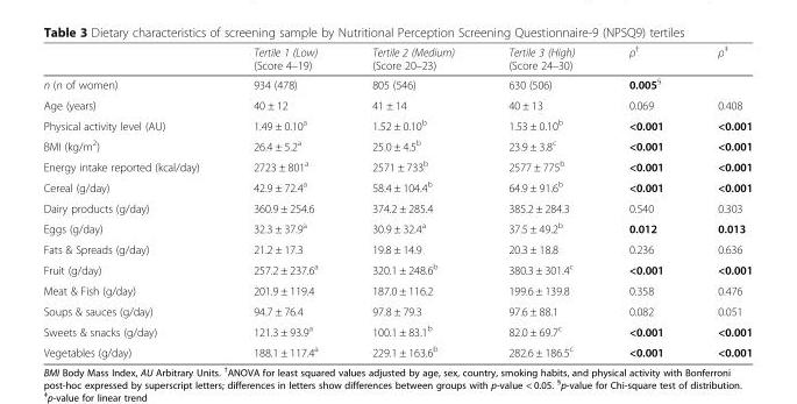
<table><thead><tr><td></td><td>Tertile 1 (Low) (Score 4–19)</td><td>Tertile 2 (Medium) (Score 20–23)</td><td>Tertile 3 (High) (Score 24–30)</td><td>ρ<sup>†</sup></td><td>ρ<sup>‡</sup></td></tr></thead><tbody><tr><td>n (n of women)</td><td>934 (478)</td><td>805 (546)</td><td>630 (506)</td><td>0.005<sup>§</sup></td><td></td></tr><tr><td>Age (years)</td><td>40 ± 12</td><td>41 ± 14</td><td>40 ± 13</td><td>0.069</td><td>0.408</td></tr><tr><td>Physical activity level (AU)</td><td>1.49 ± 0.10<sup>a</sup></td><td>1.52 ± 0.10<sup>b</sup></td><td>1.53 ± 0.10<sup>b</sup></td><td>&lt;0.001</td><td>&lt;0.001</td></tr><tr><td>BMI (kg/m<sup>2</sup>)</td><td>26.4 ± 5.2<sup>a</sup></td><td>25.0 ± 4.5<sup>b</sup></td><td>23.9 ± 3.8<sup>c</sup></td><td>&lt;0.001</td><td>&lt;0.001</td></tr><tr><td>Energy intake reported (kcal/day)</td><td>2723 ± 801<sup>a</sup></td><td>2571 ± 733<sup>b</sup></td><td>2577 ± 775<sup>b</sup></td><td>&lt;0.001</td><td>&lt;0.001</td></tr><tr><td>Cereal (g/day)</td><td>42.9 ± 72.4<sup>a</sup></td><td>58.4 ± 104.4<sup>b</sup></td><td>64.9 ± 91.6<sup>b</sup></td><td>&lt;0.001</td><td>&lt;0.001</td></tr><tr><td>Dairy products (g/day)</td><td>360.9 ± 254.6</td><td>374.2 ± 285.4</td><td>385.2 ± 284.3</td><td>0.540</td><td>0.303</td></tr><tr><td>Eggs (g/day)</td><td>32.3 ± 37.9<sup>a</sup></td><td>30.9 ± 32.4<sup>a</sup></td><td>37.5 ± 49.2<sup>b</sup></td><td>0.012</td><td>0.013</td></tr><tr><td>Fats &amp; Spreads (g/day)</td><td>21.2 ± 17.3</td><td>19.8 ± 14.9</td><td>20.3 ± 18.8</td><td>0.236</td><td>0.636</td></tr><tr><td>Fruit (g/day)</td><td>257.2 ± 237.6<sup>a</sup></td><td>320.1 ± 248.6<sup>b</sup></td><td>380.3 ± 301.4<sup>c</sup></td><td>&lt;0.001</td><td>&lt;0.001</td></tr><tr><td>Meat &amp; Fish (g/day)</td><td>201.9 ± 119.4</td><td>187.0 ± 116.2</td><td>199.6 ± 139.8</td><td>0.358</td><td>0.476</td></tr><tr><td>Soups &amp; sauces (g/day)</td><td>94.7 ± 76.4</td><td>97.8 ± 79.3</td><td>97.6 ± 88.1</td><td>0.082</td><td>0.051</td></tr><tr><td>Sweets &amp; snacks (g/day)</td><td>121.3 ± 93.9<sup>a</sup></td><td>100.1 ± 83.1<sup>b</sup></td><td>82.0 ± 69.7<sup>c</sup></td><td>&lt;0.001</td><td>&lt;0.001</td></tr><tr><td>Vegetables (g/day)</td><td>188.1 ± 117.4<sup>a</sup></td><td>229.1 ± 163.6<sup>b</sup></td><td>282.6 ± 186.5<sup>c</sup></td><td>&lt;0.001</td><td>&lt;0.001</td></tr></tbody></table>